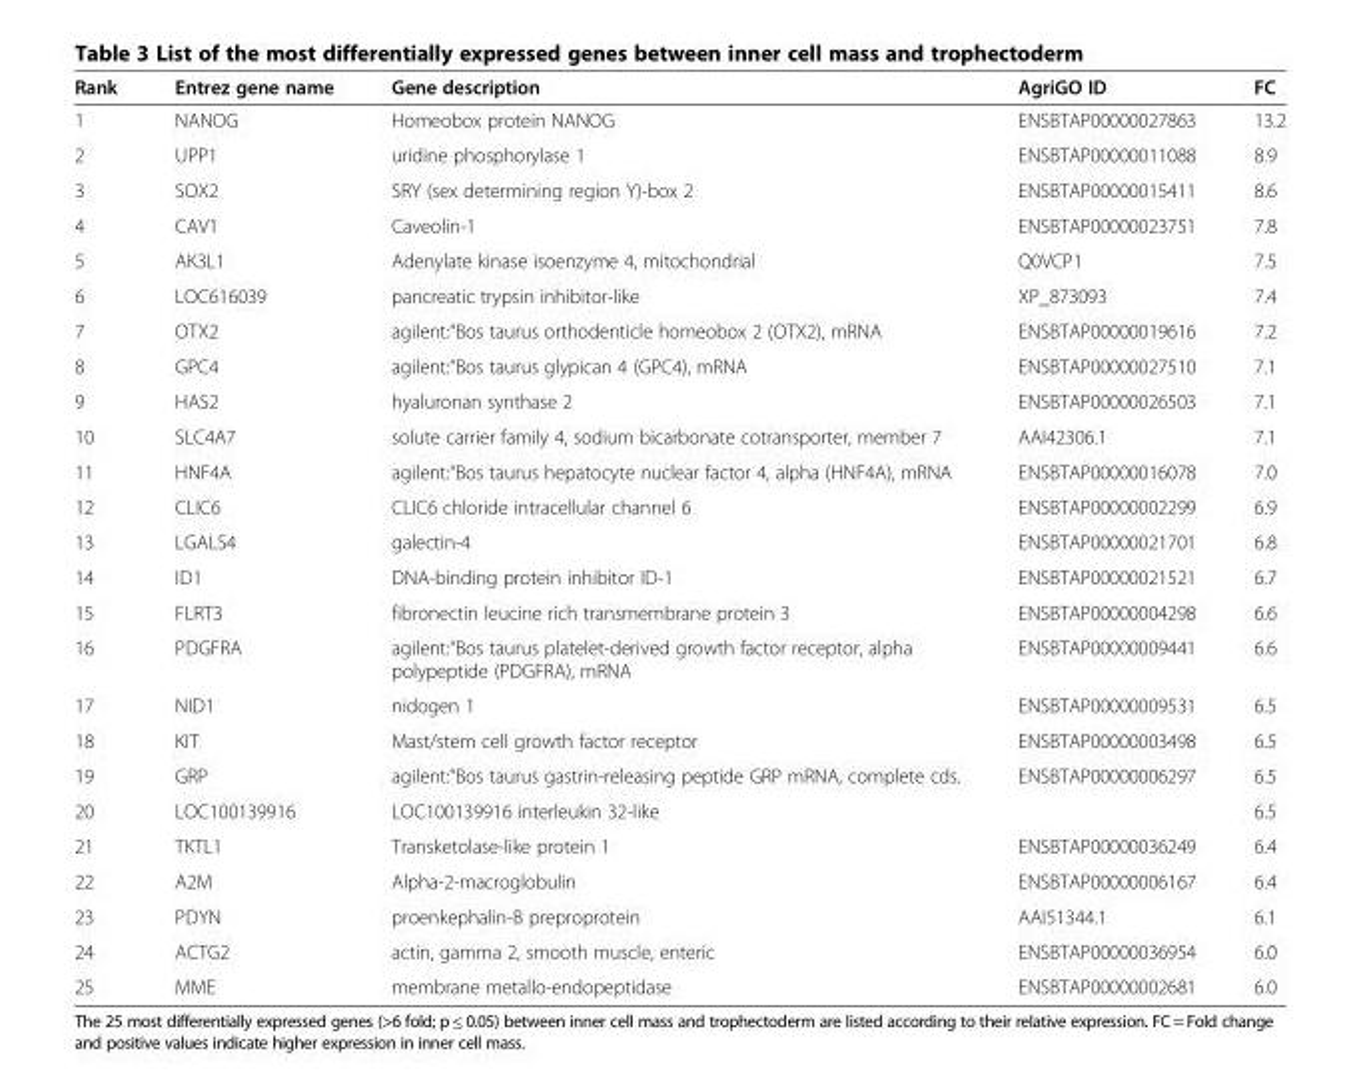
<table><thead><tr><td>Rank</td><td>Entrez gene name</td><td>Gene description</td><td>AgriGO ID</td><td>FC</td></tr></thead><tbody><tr><td>1</td><td>NANOG</td><td>Homeobox protein NANOG</td><td>ENSBTAP00000027863</td><td>13.2</td></tr><tr><td>2</td><td>UPP1</td><td>uridine phosphorylase 1</td><td>ENSBTAP00000011088</td><td>8.9</td></tr><tr><td>3</td><td>SOX2</td><td>SRY (sex determining region Y)-box 2</td><td>ENSBTAP00000015411</td><td>8.6</td></tr><tr><td>4</td><td>CAV1</td><td>Caveolin-1</td><td>ENSBTAP00000023751</td><td>7.8</td></tr><tr><td>5</td><td>AK3L1</td><td>Adenylate kinase isoenzyme 4, mitochondrial</td><td>Q0VCP1</td><td>7.5</td></tr><tr><td>6</td><td>LOC616039</td><td>pancreatic trypsin inhibitor-like</td><td>XP_873093</td><td>7.4</td></tr><tr><td>7</td><td>OTX2</td><td>agilent:“Bos taurus orthodenticle homeobox 2 (OTX2), mRNA</td><td>ENSBTAP00000019616</td><td>7.2</td></tr><tr><td>8</td><td>GPC4</td><td>agilent:“Bos taurus glypican 4 (GPC4), mRNA</td><td>ENSBTAP00000027510</td><td>7.1</td></tr><tr><td>9</td><td>HAS2</td><td>hyaluronan synthase 2</td><td>ENSBTAP00000026503</td><td>7.1</td></tr><tr><td>10</td><td>SLC4A7</td><td>solute carrier family 4, sodium bicarbonate cotransporter, member 7</td><td>AAI42306.1</td><td>7.1</td></tr><tr><td>11</td><td>HNF4A</td><td>agilent:“Bos taurus hepatocyte nuclear factor 4, alpha (HNF4A), mRNA</td><td>ENSBTAP00000016078</td><td>7.0</td></tr><tr><td>12</td><td>CLIC6</td><td>CLIC6 chloride intracellular channel 6</td><td>ENSBTAP00000002299</td><td>6.9</td></tr><tr><td>13</td><td>LGALS4</td><td>galectin-4</td><td>ENSBTAP00000021701</td><td>6.8</td></tr><tr><td>14</td><td>ID1</td><td>DNA-binding protein inhibitor ID-1</td><td>ENSBTAP00000021521</td><td>6.7</td></tr><tr><td>15</td><td>FLRT3</td><td>fibronectin leucine rich transmembrane protein 3</td><td>ENSBTAP00000004298</td><td>6.6</td></tr><tr><td>16</td><td>PDGFRA</td><td>agilent:“Bos taurus platelet-derived growth factor receptor, alpha polypeptide (PDGFRA), mRNA</td><td>ENSBTAP00000009441</td><td>6.6</td></tr><tr><td>17</td><td>NID1</td><td>nidogen 1</td><td>ENSBTAP00000009531</td><td>6.5</td></tr><tr><td>18</td><td>KIT</td><td>Mast/stem cell growth factor receptor</td><td>ENSBTAP00000003498</td><td>6.5</td></tr><tr><td>19</td><td>GRP</td><td>agilent:“Bos taurus gastrin-releasing peptide GRP mRNA, complete cds.</td><td>ENSBTAP00000006297</td><td>6.5</td></tr><tr><td>20</td><td>LOC100139916</td><td>LOC100139916 interleukin 32-like</td><td></td><td>6.5</td></tr><tr><td>21</td><td>TKTL1</td><td>Transketolase-like protein 1</td><td>ENSBTAP00000036249</td><td>6.4</td></tr><tr><td>22</td><td>A2M</td><td>Alpha-2-macroglobulin</td><td>ENSBTAP00000006167</td><td>6.4</td></tr><tr><td>23</td><td>PDYN</td><td>proenkephalin-B preproprotein</td><td>AAI51344.1</td><td>6.1</td></tr><tr><td>24</td><td>ACTG2</td><td>actin, gamma 2, smooth muscle, enteric</td><td>ENSBTAP00000036954</td><td>6.0</td></tr><tr><td>25</td><td>MME</td><td>membrane metallo-endopeptidase</td><td>ENSBTAP00000002681</td><td>6.0</td></tr></tbody></table>